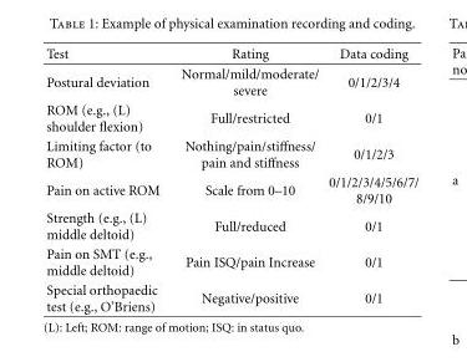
<table><thead><tr><td>Test</td><td>Rating</td><td>Data coding</td></tr></thead><tbody><tr><td>Postural deviation</td><td>Normal/mild/moderate/ severe</td><td>0/1/2/3/4</td></tr><tr><td>ROM (e.g., (L) shoulder flexion)</td><td>Full/restricted</td><td>0/1</td></tr><tr><td>Limiting factor (to ROM)</td><td>Nothing/pain/stiffness/ pain and stiffness</td><td>0/1/2/3</td></tr><tr><td>Pain on active ROM</td><td>Scale from 0–10</td><td>0/1/2/3/4/5/6/7/ 8/9/10</td></tr><tr><td>Strength (e.g., (L) middle deltoid)</td><td>Full/reduced</td><td>0/1</td></tr><tr><td>Pain on SMT (e.g., middle deltoid)</td><td>Pain ISQ/pain Increase</td><td>0/1</td></tr><tr><td>Special orthopaedic test (e.g., O’Briens)</td><td>Negative/positive</td><td>0/1</td></tr></tbody></table>